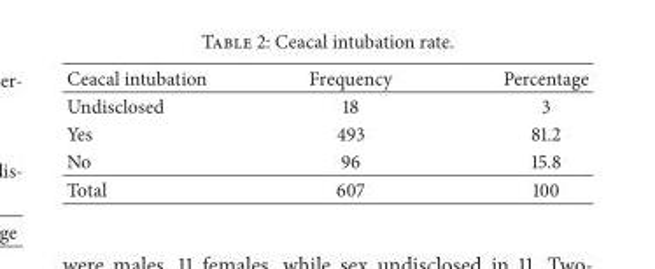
<table><thead><tr><td>Ceacal intubation</td><td>Frequency</td><td>Percentage</td></tr></thead><tbody><tr><td>Undisclosed</td><td>18</td><td>3</td></tr><tr><td>Yes</td><td>493</td><td>81.2</td></tr><tr><td>No</td><td>96</td><td>15.8</td></tr><tr><td>Total</td><td>607</td><td>100</td></tr></tbody></table>